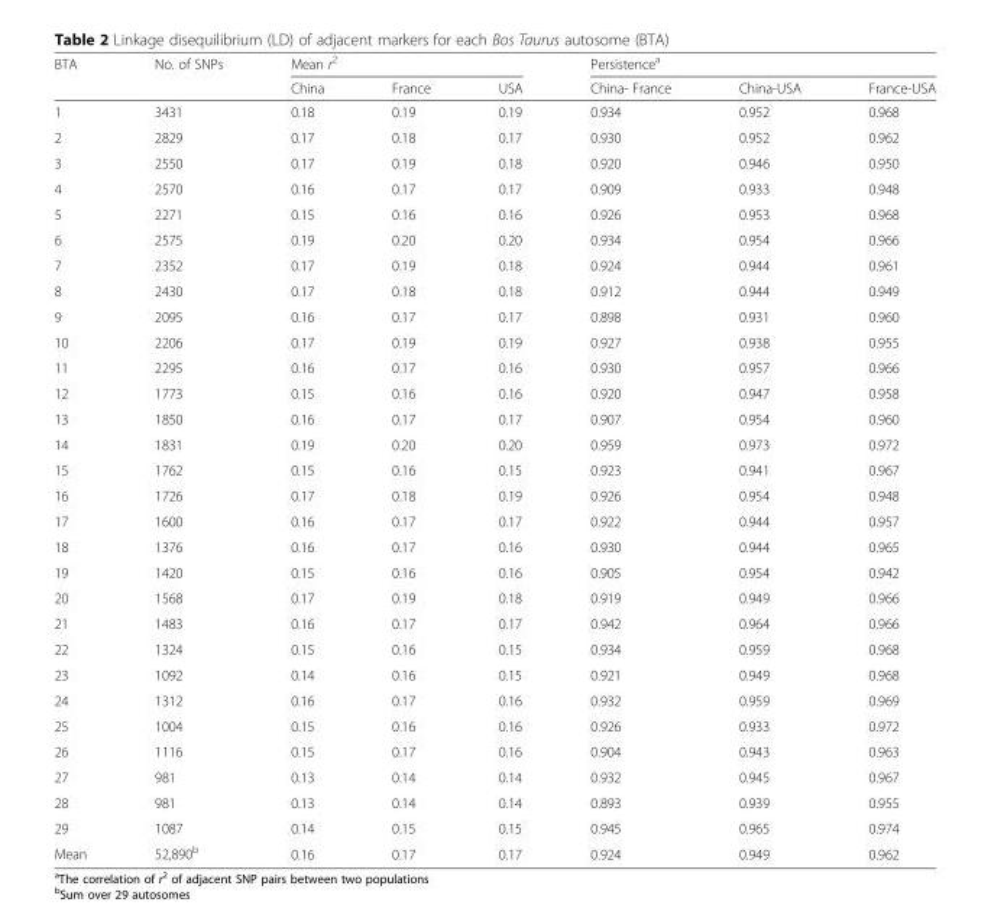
<table><thead><tr><td rowspan="2">BTA</td><td rowspan="2">No. of SNPs</td><td colspan="3">Mean r<sup>2</sup></td><td colspan="3">Persistence<sup>a</sup></td></tr><tr><td>China</td><td>France</td><td>USA</td><td>China- France</td><td>China-USA</td><td>France-USA</td></tr></thead><tbody><tr><td>1</td><td>3431</td><td>0.18</td><td>0.19</td><td>0.19</td><td>0.934</td><td>0.952</td><td>0.968</td></tr><tr><td>2</td><td>2829</td><td>0.17</td><td>0.18</td><td>0.17</td><td>0.930</td><td>0.952</td><td>0.962</td></tr><tr><td>3</td><td>2550</td><td>0.17</td><td>0.19</td><td>0.18</td><td>0.920</td><td>0.946</td><td>0.950</td></tr><tr><td>4</td><td>2570</td><td>0.16</td><td>0.17</td><td>0.17</td><td>0.909</td><td>0.933</td><td>0.948</td></tr><tr><td>5</td><td>2271</td><td>0.15</td><td>0.16</td><td>0.16</td><td>0.926</td><td>0.953</td><td>0.968</td></tr><tr><td>6</td><td>2575</td><td>0.19</td><td>0.20</td><td>0.20</td><td>0.934</td><td>0.954</td><td>0.966</td></tr><tr><td>7</td><td>2352</td><td>0.17</td><td>0.19</td><td>0.18</td><td>0.924</td><td>0.944</td><td>0.961</td></tr><tr><td>8</td><td>2430</td><td>0.17</td><td>0.18</td><td>0.18</td><td>0.912</td><td>0.944</td><td>0.949</td></tr><tr><td>9</td><td>2095</td><td>0.16</td><td>0.17</td><td>0.17</td><td>0.898</td><td>0.931</td><td>0.960</td></tr><tr><td>10</td><td>2206</td><td>0.17</td><td>0.19</td><td>0.19</td><td>0.927</td><td>0.938</td><td>0.955</td></tr><tr><td>11</td><td>2295</td><td>0.16</td><td>0.17</td><td>0.16</td><td>0.930</td><td>0.957</td><td>0.966</td></tr><tr><td>12</td><td>1773</td><td>0.15</td><td>0.16</td><td>0.16</td><td>0.920</td><td>0.947</td><td>0.958</td></tr><tr><td>13</td><td>1850</td><td>0.16</td><td>0.17</td><td>0.17</td><td>0.907</td><td>0.954</td><td>0.960</td></tr><tr><td>14</td><td>1831</td><td>0.19</td><td>0.20</td><td>0.20</td><td>0.959</td><td>0.973</td><td>0.972</td></tr><tr><td>15</td><td>1762</td><td>0.15</td><td>0.16</td><td>0.15</td><td>0.923</td><td>0.941</td><td>0.967</td></tr><tr><td>16</td><td>1726</td><td>0.17</td><td>0.18</td><td>0.19</td><td>0.926</td><td>0.954</td><td>0.948</td></tr><tr><td>17</td><td>1600</td><td>0.16</td><td>0.17</td><td>0.17</td><td>0.922</td><td>0.944</td><td>0.957</td></tr><tr><td>18</td><td>1376</td><td>0.16</td><td>0.17</td><td>0.16</td><td>0.930</td><td>0.944</td><td>0.965</td></tr><tr><td>19</td><td>1420</td><td>0.15</td><td>0.16</td><td>0.16</td><td>0.905</td><td>0.954</td><td>0.942</td></tr><tr><td>20</td><td>1568</td><td>0.17</td><td>0.19</td><td>0.18</td><td>0.919</td><td>0.949</td><td>0.966</td></tr><tr><td>21</td><td>1483</td><td>0.16</td><td>0.17</td><td>0.17</td><td>0.942</td><td>0.964</td><td>0.966</td></tr><tr><td>22</td><td>1324</td><td>0.15</td><td>0.16</td><td>0.15</td><td>0.934</td><td>0.959</td><td>0.968</td></tr><tr><td>23</td><td>1092</td><td>0.14</td><td>0.16</td><td>0.15</td><td>0.921</td><td>0.949</td><td>0.968</td></tr><tr><td>24</td><td>1312</td><td>0.16</td><td>0.17</td><td>0.16</td><td>0.932</td><td>0.959</td><td>0.969</td></tr><tr><td>25</td><td>1004</td><td>0.15</td><td>0.16</td><td>0.16</td><td>0.926</td><td>0.933</td><td>0.972</td></tr><tr><td>26</td><td>1116</td><td>0.15</td><td>0.17</td><td>0.16</td><td>0.904</td><td>0.943</td><td>0.963</td></tr><tr><td>27</td><td>981</td><td>0.13</td><td>0.14</td><td>0.14</td><td>0.932</td><td>0.945</td><td>0.967</td></tr><tr><td>28</td><td>981</td><td>0.13</td><td>0.14</td><td>0.14</td><td>0.893</td><td>0.939</td><td>0.955</td></tr><tr><td>29</td><td>1087</td><td>0.14</td><td>0.15</td><td>0.15</td><td>0.945</td><td>0.965</td><td>0.974</td></tr><tr><td>Mean</td><td>52,890<sup>b</sup></td><td>0.16</td><td>0.17</td><td>0.17</td><td>0.924</td><td>0.949</td><td>0.962</td></tr></tbody></table>